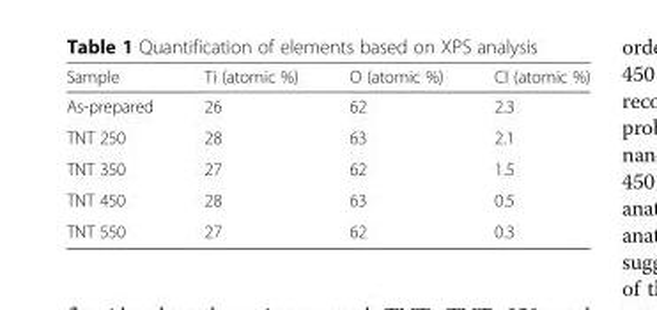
<table><thead><tr><td>Sample</td><td>Ti (atomic %)</td><td>O (atomic %)</td><td>Cl (atomic %)</td></tr></thead><tbody><tr><td>As-prepared</td><td>26</td><td>62</td><td>2.3</td></tr><tr><td>TNT 250</td><td>28</td><td>63</td><td>2.1</td></tr><tr><td>TNT 350</td><td>27</td><td>62</td><td>1.5</td></tr><tr><td>TNT 450</td><td>28</td><td>63</td><td>0.5</td></tr><tr><td>TNT 550</td><td>27</td><td>62</td><td>0.3</td></tr></tbody></table>